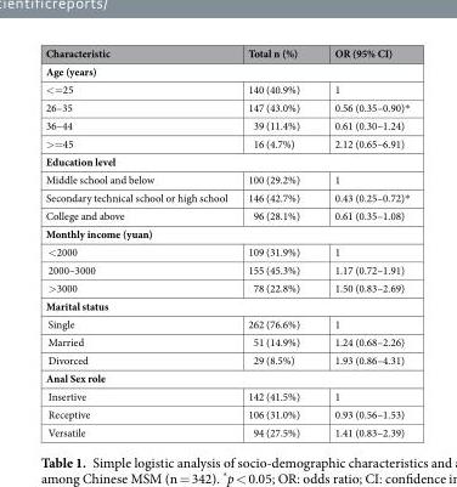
<table><thead><tr><td>Characteristic</td><td>Total n (%)</td><td>OR (95% CI)</td></tr></thead><tbody><tr><td colspan="3">Age (years)</td></tr><tr><td>&lt;=25</td><td>140 (40.9%)</td><td>1</td></tr><tr><td>26–35</td><td>147 (43.0%)</td><td>0.56 (0.35–0.90)*</td></tr><tr><td>36–44</td><td>39 (11.4%)</td><td>0.61 (0.30–1.24)</td></tr><tr><td>&gt;=45</td><td>16 (4.7%)</td><td>2.12 (0.65–6.91)</td></tr><tr><td colspan="3">Education level</td></tr><tr><td>Middle school and below</td><td>100 (29.2%)</td><td>1</td></tr><tr><td>Secondary technical school or high school</td><td>146 (42.7%)</td><td>0.43 (0.25–0.72)*</td></tr><tr><td>College and above</td><td>96 (28.1%)</td><td>0.61 (0.35–1.08)</td></tr><tr><td colspan="3">Monthly income (yuan)</td></tr><tr><td>&lt;2000</td><td>109 (31.9%)</td><td>1</td></tr><tr><td>2000–3000</td><td>155 (45.3%)</td><td>1.17 (0.72–1.91)</td></tr><tr><td>&gt;3000</td><td>78 (22.8%)</td><td>1.50 (0.83–2.69)</td></tr><tr><td colspan="3">Marital status</td></tr><tr><td>Single</td><td>262 (76.6%)</td><td>1</td></tr><tr><td>Married</td><td>51 (14.9%)</td><td>1.24 (0.68–2.26)</td></tr><tr><td>Divorced</td><td>29 (8.5%)</td><td>1.93 (0.86–4.31)</td></tr><tr><td colspan="3">Anal Sex role</td></tr><tr><td>Insertive</td><td>142 (41.5%)</td><td>1</td></tr><tr><td>Receptive</td><td>106 (31.0%)</td><td>0.93 (0.56–1.53)</td></tr><tr><td>Versatile</td><td>94 (27.5%)</td><td>1.41 (0.83–2.39)</td></tr></tbody></table>